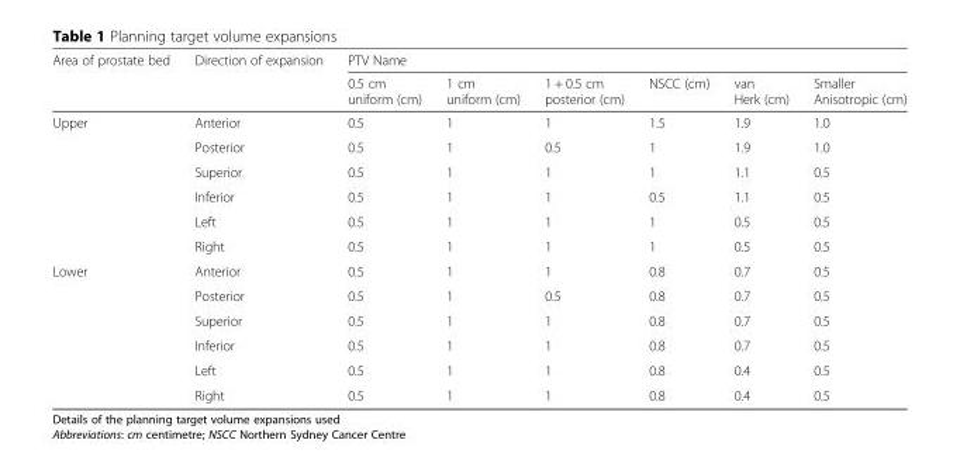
<table><thead><tr><td rowspan="2">Area of prostate bed</td><td rowspan="2">Direction of expansion</td><td colspan="6">PTV Name</td></tr><tr><td>0.5 cm uniform (cm)</td><td>1 cm uniform (cm)</td><td>1 + 0.5 cm posterior (cm)</td><td>NSCC (cm)</td><td>van Herk (cm)</td><td>Smaller Anisotropic (cm)</td></tr></thead><tbody><tr><td rowspan="6">Upper</td><td>Anterior</td><td>0.5</td><td>1</td><td>1</td><td>1.5</td><td>1.9</td><td>1.0</td></tr><tr><td>Posterior</td><td>0.5</td><td>1</td><td>0.5</td><td>1</td><td>1.9</td><td>1.0</td></tr><tr><td>Superior</td><td>0.5</td><td>1</td><td>1</td><td>1</td><td>1.1</td><td>0.5</td></tr><tr><td>Inferior</td><td>0.5</td><td>1</td><td>1</td><td>0.5</td><td>1.1</td><td>0.5</td></tr><tr><td>Left</td><td>0.5</td><td>1</td><td>1</td><td>1</td><td>0.5</td><td>0.5</td></tr><tr><td>Right</td><td>0.5</td><td>1</td><td>1</td><td>1</td><td>0.5</td><td>0.5</td></tr><tr><td rowspan="6">Lower</td><td>Anterior</td><td>0.5</td><td>1</td><td>1</td><td>0.8</td><td>0.7</td><td>0.5</td></tr><tr><td>Posterior</td><td>0.5</td><td>1</td><td>0.5</td><td>0.8</td><td>0.7</td><td>0.5</td></tr><tr><td>Superior</td><td>0.5</td><td>1</td><td>1</td><td>0.8</td><td>0.7</td><td>0.5</td></tr><tr><td>Inferior</td><td>0.5</td><td>1</td><td>1</td><td>0.8</td><td>0.7</td><td>0.5</td></tr><tr><td>Left</td><td>0.5</td><td>1</td><td>1</td><td>0.8</td><td>0.4</td><td>0.5</td></tr><tr><td>Right</td><td>0.5</td><td>1</td><td>1</td><td>0.8</td><td>0.4</td><td>0.5</td></tr></tbody></table>